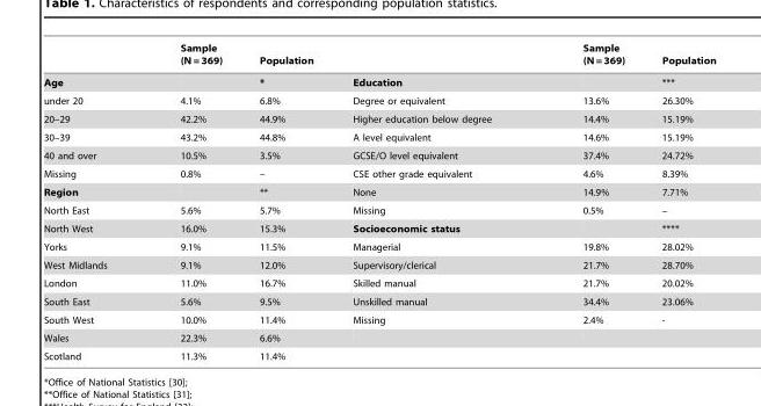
<table><thead><tr><td></td><td>Sample (N = 369)</td><td>Population</td><td></td><td>Sample (N = 369)</td><td>Population</td></tr></thead><tbody><tr><td>Age</td><td></td><td>*</td><td>Education</td><td></td><td>***</td></tr><tr><td>under 20</td><td>4.1%</td><td>6.8%</td><td>Degree or equivalent</td><td>13.6%</td><td>26.30%</td></tr><tr><td>20–29</td><td>42.2%</td><td>44.9%</td><td>Higher education below degree</td><td>14.4%</td><td>15.19%</td></tr><tr><td>30–39</td><td>43.2%</td><td>44.8%</td><td>A level equivalent</td><td>14.6%</td><td>15.19%</td></tr><tr><td>40 and over</td><td>10.5%</td><td>3.5%</td><td>GCSE/O level equivalent</td><td>37.4%</td><td>24.72%</td></tr><tr><td>Missing</td><td>0.8%</td><td>–</td><td>CSE other grade equivalent</td><td>4.6%</td><td>8.39%</td></tr><tr><td>Region</td><td></td><td>**</td><td>None</td><td>14.9%</td><td>7.71%</td></tr><tr><td>North East</td><td>5.6%</td><td>5.7%</td><td>Missing</td><td>0.5%</td><td>–</td></tr><tr><td>North West</td><td>16.0%</td><td>15.3%</td><td>Socioeconomic status</td><td></td><td>****</td></tr><tr><td>Yorks</td><td>9.1%</td><td>11.5%</td><td>Managerial</td><td>19.8%</td><td>28.02%</td></tr><tr><td>West Midlands</td><td>9.1%</td><td>12.0%</td><td>Supervisory/clerical</td><td>21.7%</td><td>28.70%</td></tr><tr><td>London</td><td>11.0%</td><td>16.7%</td><td>Skilled manual</td><td>21.7%</td><td>20.02%</td></tr><tr><td>South East</td><td>5.6%</td><td>9.5%</td><td>Unskilled manual</td><td>34.4%</td><td>23.06%</td></tr><tr><td>South West</td><td>10.0%</td><td>11.4%</td><td>Missing</td><td>2.4%</td><td>-</td></tr><tr><td>Wales</td><td>22.3%</td><td>6.6%</td><td></td><td></td><td></td></tr><tr><td>Scotland</td><td>11.3%</td><td>11.4%</td><td></td><td></td><td></td></tr></tbody></table>